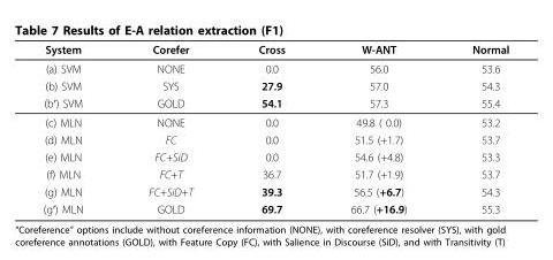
<table><thead><tr><td>System</td><td>Corefer</td><td>Cross</td><td>W-ANT</td><td>Normal</td></tr></thead><tbody><tr><td>(a) SVM</td><td>NONE</td><td>0.0</td><td>56.0</td><td>53.6</td></tr><tr><td>(b) SVM</td><td>SYS</td><td>27.9</td><td>57.0</td><td>54.3</td></tr><tr><td>(b′) SVM</td><td>GOLD</td><td>54.1</td><td>57.3</td><td>55.4</td></tr><tr><td>(c) MLN</td><td>NONE</td><td>0.0</td><td>49.8 ( 0.0)</td><td>53.2</td></tr><tr><td>(d) MLN</td><td>FC</td><td>0.0</td><td>51.5 (+1.7)</td><td>53.7</td></tr><tr><td>(e) MLN</td><td>FC+SiD</td><td>0.0</td><td>54.6 (+4.8)</td><td>53.3</td></tr><tr><td>(f) MLN</td><td>FC+T</td><td>36.7</td><td>51.7 (+1.9)</td><td>53.7</td></tr><tr><td>(g) MLN</td><td>FC+SiD+T</td><td>39.3</td><td>56.5 (+6.7)</td><td>54.3</td></tr><tr><td>(g′) MLN</td><td>GOLD</td><td>69.7</td><td>66.7 (+16.9)</td><td>55.3</td></tr></tbody></table>